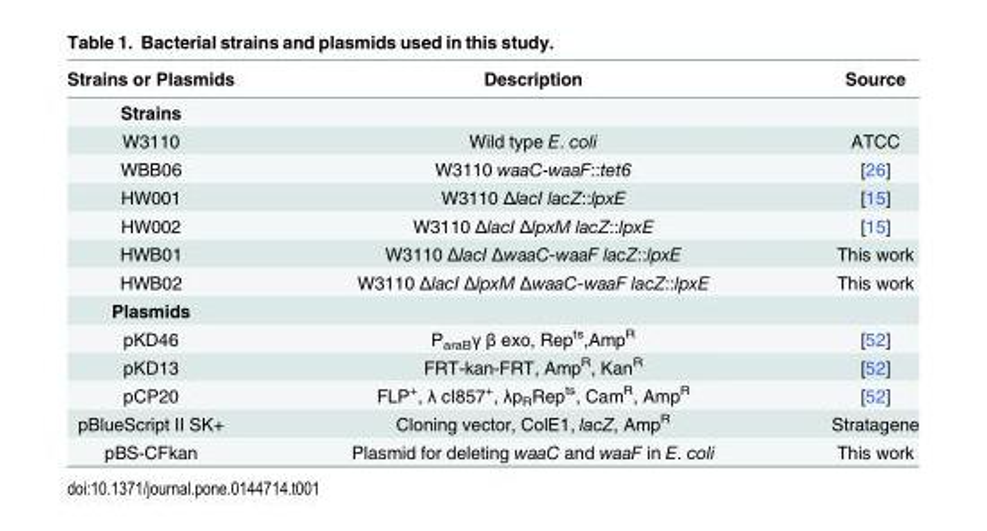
<table><thead><tr><td>Strains or Plasmids</td><td>Description</td><td>Source</td></tr></thead><tbody><tr><td colspan="3">Strains</td></tr><tr><td>W3110</td><td>Wild type E. coli</td><td>ATCC</td></tr><tr><td>WBB06</td><td>W3110 waaC-waaF::tet6</td><td>[26]</td></tr><tr><td>HW001</td><td>W3110 ΔlacI lacZ::lpxE</td><td>[15]</td></tr><tr><td>HW002</td><td>W3110 ΔlacI ΔlpxM lacZ::lpxE</td><td>[15]</td></tr><tr><td>HWB01</td><td>W3110 ΔlacI ΔwaaC-waaF lacZ::lpxE</td><td>This work</td></tr><tr><td>HWB02</td><td>W3110 ΔlacI ΔlpxM ΔwaaC-waaF lacZ::lpxE</td><td>This work</td></tr><tr><td colspan="3">Plasmids</td></tr><tr><td>pKD46</td><td>P<sub>araB</sub>γ β exo, Rep<sup>ts</sup>,Amp<sup>R</sup></td><td>[52]</td></tr><tr><td>pKD13</td><td>FRT-kan-FRT, Amp<sup>R</sup>, Kan<sup>R</sup></td><td>[52]</td></tr><tr><td>pCP20</td><td>FLP<sup>+</sup>, λ cI857<sup>+</sup>, λp<sub>R</sub>Rep<sup>ts</sup>, Cam<sup>R</sup>, Amp<sup>R</sup></td><td>[52]</td></tr><tr><td>pBlueScript II SK+</td><td>Cloning vector, ColE1, lacZ, Amp<sup>R</sup></td><td>Stratagene</td></tr><tr><td>pBS-CFkan</td><td>Plasmid for deleting waaC and waaF in E. coli</td><td>This work</td></tr></tbody></table>